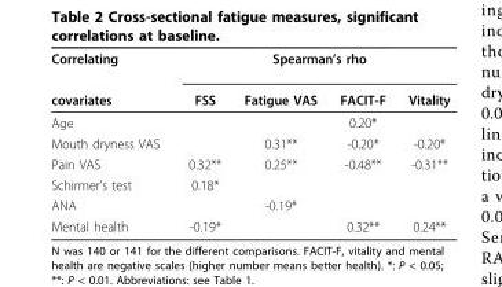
<table><thead><tr><td rowspan="2">Correlating covariates</td><td colspan="4">Spearman’s rho</td></tr><tr><td>FSS</td><td>Fatigue VAS</td><td>FACIT-F</td><td>Vitality</td></tr></thead><tbody><tr><td>Age</td><td></td><td></td><td>0.20*</td><td></td></tr><tr><td>Mouth dryness VAS</td><td></td><td>0.31**</td><td>-0.20*</td><td>-0.20*</td></tr><tr><td>Pain VAS</td><td>0.32**</td><td>0.25**</td><td>-0.48**</td><td>-0.31**</td></tr><tr><td>Schirmer’s test</td><td>0.18*</td><td></td><td></td><td></td></tr><tr><td>ANA</td><td></td><td>-0.19*</td><td></td><td></td></tr><tr><td>Mental health</td><td>-0.19*</td><td></td><td>0.32**</td><td>0.24**</td></tr></tbody></table>